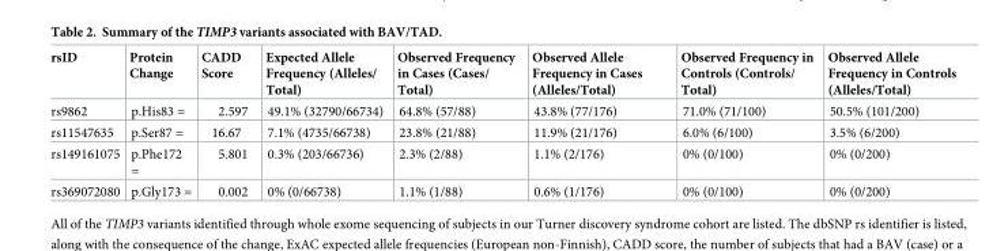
<table><thead><tr><td>rsID</td><td>Protein Change</td><td>CADD Score</td><td>Expected Allele Frequency (Alleles/ Total)</td><td>Observed Frequency in Cases (Cases/ Total)</td><td>Observed Allele Frequency in Cases (Alleles/Total)</td><td>Observed Frequency in Controls (Controls/ Total)</td><td>Observed Allele Frequency in Controls (Alleles/Total)</td></tr></thead><tbody><tr><td>rs9862</td><td>p.His83 =</td><td>2.597</td><td>49.1% (32790/66734)</td><td>64.8% (57/88)</td><td>43.8% (77/176)</td><td>71.0% (71/100)</td><td>50.5% (101/200)</td></tr><tr><td>rs11547635</td><td>p.Ser87 =</td><td>16.67</td><td>7.1% (4735/66738)</td><td>23.8% (21/88)</td><td>11.9% (21/176)</td><td>6.0% (6/100)</td><td>3.5% (6/200)</td></tr><tr><td>rs149161075</td><td>p.Phe172 =</td><td>5.801</td><td>0.3% (203/66736)</td><td>2.3% (2/88)</td><td>1.1% (2/176)</td><td>0% (0/100)</td><td>0% (0/200)</td></tr><tr><td>rs369072080</td><td>p.Gly173 =</td><td>0.002</td><td>0% (0/66738)</td><td>1.1% (1/88)</td><td>0.6% (1/176)</td><td>0% (0/100)</td><td>0% (0/200)</td></tr></tbody></table>